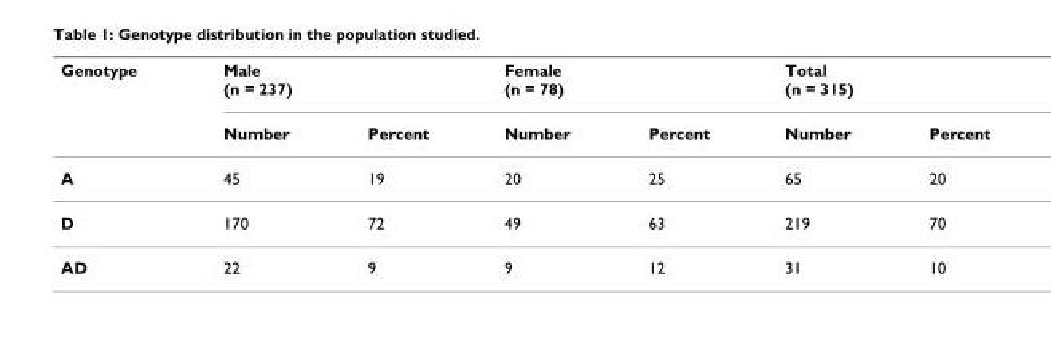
<table><thead><tr><td rowspan="2">Genotype</td><td colspan="2">Male (n = 237)</td><td colspan="2">Female (n = 78)</td><td colspan="2">Total (n = 315)</td></tr><tr><td>Number</td><td>Percent</td><td>Number</td><td>Percent</td><td>Number</td><td>Percent</td></tr></thead><tbody><tr><td>A</td><td>45</td><td>19</td><td>20</td><td>25</td><td>65</td><td>20</td></tr><tr><td>D</td><td>170</td><td>72</td><td>49</td><td>63</td><td>219</td><td>70</td></tr><tr><td>AD</td><td>22</td><td>9</td><td>9</td><td>12</td><td>31</td><td>10</td></tr></tbody></table>